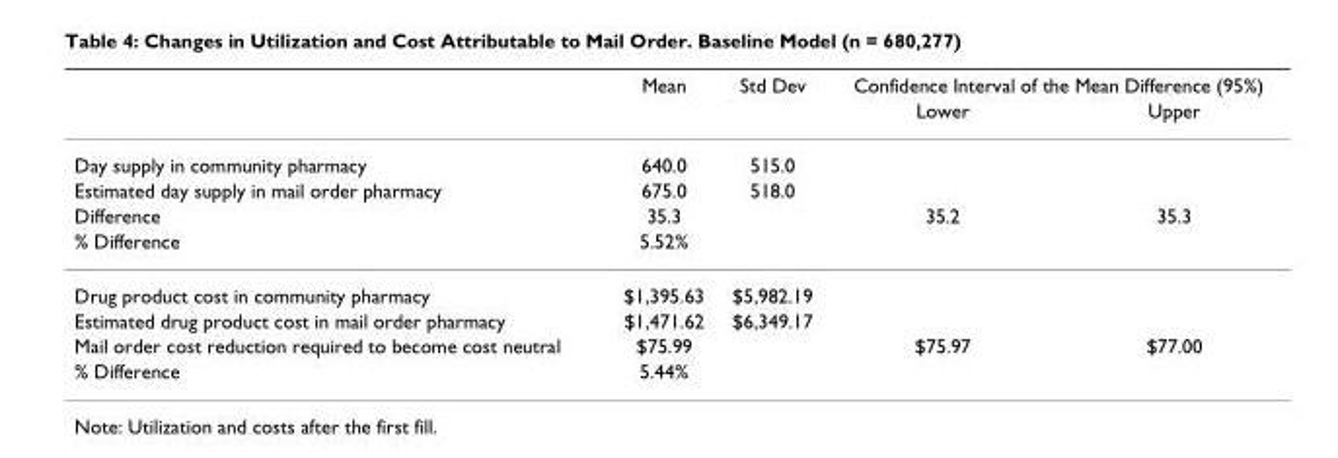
<table><thead><tr><td rowspan="2"></td><td rowspan="2">Mean</td><td rowspan="2">Std Dev</td><td colspan="2">Confidence Interval of the Mean Difference (95%)</td></tr><tr><td>Lower</td><td>Upper</td></tr></thead><tbody><tr><td>Day supply in community pharmacy</td><td>640.0</td><td>515.0</td><td></td><td></td></tr><tr><td>Estimated day supply in mail order pharmacy</td><td>675.0</td><td>518.0</td><td></td><td></td></tr><tr><td>Difference</td><td>35.3</td><td></td><td>35.2</td><td>35.3</td></tr><tr><td>% Difference</td><td>5.52%</td><td></td><td></td><td></td></tr><tr><td>Drug product cost in community pharmacy</td><td>$1,395.63</td><td>$5,982.19</td><td></td><td></td></tr><tr><td>Estimated drug product cost in mail order pharmacy</td><td>$1,471.62</td><td>$6,349.17</td><td></td><td></td></tr><tr><td>Mail order cost reduction required to become cost neutral</td><td>$75.99</td><td></td><td>$75.97</td><td>$77.00</td></tr><tr><td>% Difference</td><td>5.44%</td><td></td><td></td><td></td></tr></tbody></table>